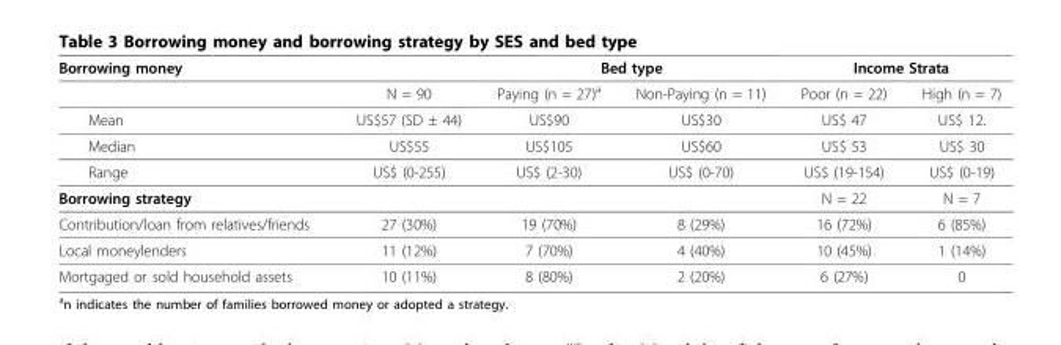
<table><thead><tr><td rowspan="2">Borrowing money</td><td rowspan="2">N = 90</td><td colspan="2">Bed type</td><td colspan="2">Income Strata</td></tr><tr><td>Paying (n = 27)<sup>a</sup></td><td>Non-Paying (n = 11)</td><td>Poor (n = 22)</td><td>High (n = 7)</td></tr></thead><tbody><tr><td>Mean</td><td>US$57 (SD ± 44)</td><td>US$90</td><td>US$30</td><td>US$ 47</td><td>US$ 12.</td></tr><tr><td>Median</td><td>US$55</td><td>US$105</td><td>US$60</td><td>US$ 53</td><td>US$ 30</td></tr><tr><td>Range</td><td>US$ (0-255)</td><td>US$ (2-30)</td><td>US$ (0-70)</td><td>US$ (19-154)</td><td>US$ (0-19)</td></tr><tr><td>Borrowing strategy</td><td></td><td></td><td></td><td>N = 22</td><td>N = 7</td></tr><tr><td>Contribution/loan from relatives/friends</td><td>27 (30%)</td><td>19 (70%)</td><td>8 (29%)</td><td>16 (72%)</td><td>6 (85%)</td></tr><tr><td>Local moneylenders</td><td>11 (12%)</td><td>7 (70%)</td><td>4 (40%)</td><td>10 (45%)</td><td>1 (14%)</td></tr><tr><td>Mortgaged or sold household assets</td><td>10 (11%)</td><td>8 (80%)</td><td>2 (20%)</td><td>6 (27%)</td><td>0</td></tr></tbody></table>